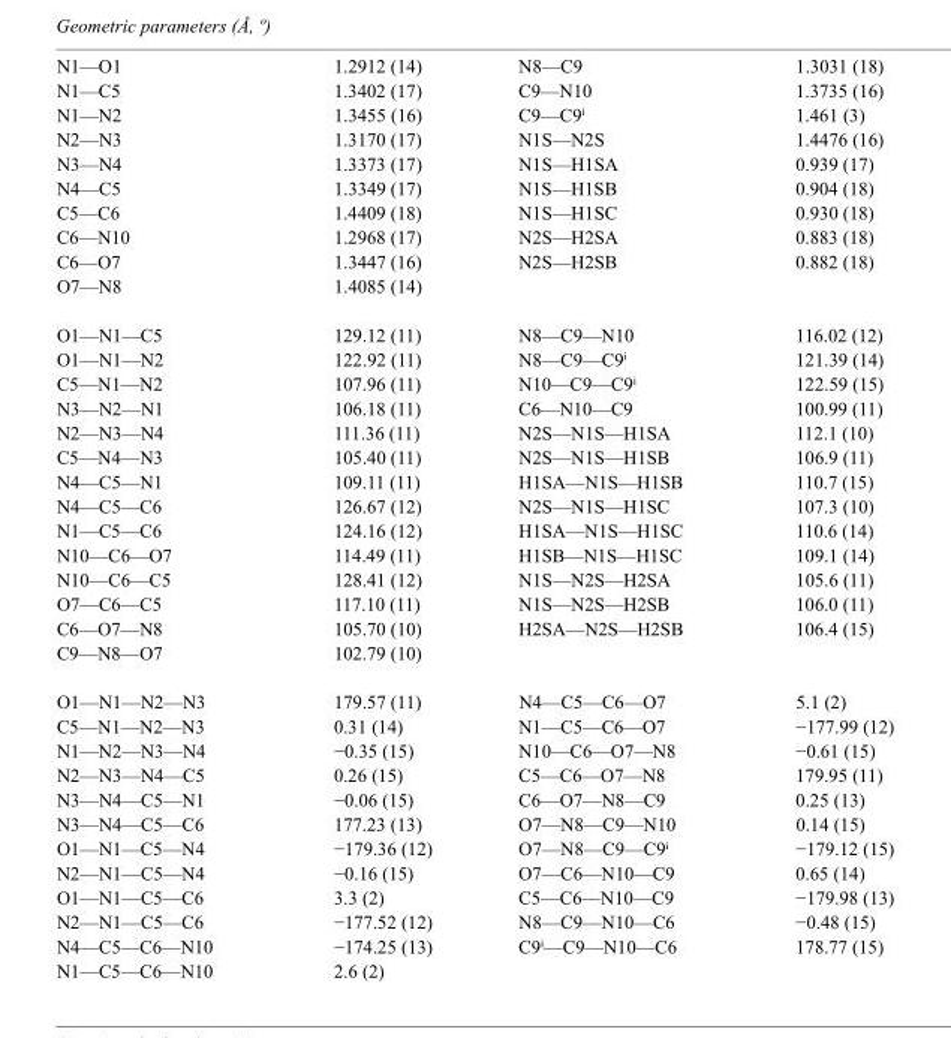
<table><tbody><tr><td>N1—O1</td><td>1.2912 (14)</td><td>N8—C9</td><td>1.3031 (18)</td></tr><tr><td>N1—C5</td><td>1.3402 (17)</td><td>C9—N10</td><td>1.3735 (16)</td></tr><tr><td>N1—N2</td><td>1.3455 (16)</td><td>C9—C9<sup>i</sup></td><td>1.461 (3)</td></tr><tr><td>N2—N3</td><td>1.3170 (17)</td><td>N1S—N2S</td><td>1.4476 (16)</td></tr><tr><td>N3—N4</td><td>1.3373 (17)</td><td>N1S—H1SA</td><td>0.939 (17)</td></tr><tr><td>N4—C5</td><td>1.3349 (17)</td><td>N1S—H1SB</td><td>0.904 (18)</td></tr><tr><td>C5—C6</td><td>1.4409 (18)</td><td>N1S—H1SC</td><td>0.930 (18)</td></tr><tr><td>C6—N10</td><td>1.2968 (17)</td><td>N2S—H2SA</td><td>0.883 (18)</td></tr><tr><td>C6—O7</td><td>1.3447 (16)</td><td>N2S—H2SB</td><td>0.882 (18)</td></tr><tr><td>O7—N8</td><td>1.4085 (14)</td><td></td><td></td></tr><tr><td>O1—N1—C5</td><td>129.12 (11)</td><td>N8—C9—N10</td><td>116.02 (12)</td></tr><tr><td>O1—N1—N2</td><td>122.92 (11)</td><td>N8—C9—C9<sup>i</sup></td><td>121.39 (14)</td></tr><tr><td>C5—N1—N2</td><td>107.96 (11)</td><td>N10—C9—C9<sup>i</sup></td><td>122.59 (15)</td></tr><tr><td>N3—N2—N1</td><td>106.18 (11)</td><td>C6—N10—C9</td><td>100.99 (11)</td></tr><tr><td>N2—N3—N4</td><td>111.36 (11)</td><td>N2S—N1S—H1SA</td><td>112.1 (10)</td></tr><tr><td>C5—N4—N3</td><td>105.40 (11)</td><td>N2S—N1S—H1SB</td><td>106.9 (11)</td></tr><tr><td>N4—C5—N1</td><td>109.11 (11)</td><td>H1SA—N1S—H1SB</td><td>110.7 (15)</td></tr><tr><td>N4—C5—C6</td><td>126.67 (12)</td><td>N2S—N1S—H1SC</td><td>107.3 (10)</td></tr><tr><td>N1—C5—C6</td><td>124.16 (12)</td><td>H1SA—N1S—H1SC</td><td>110.6 (14)</td></tr><tr><td>N10—C6—O7</td><td>114.49 (11)</td><td>H1SB—N1S—H1SC</td><td>109.1 (14)</td></tr><tr><td>N10—C6—C5</td><td>128.41 (12)</td><td>N1S—N2S—H2SA</td><td>105.6 (11)</td></tr><tr><td>O7—C6—C5</td><td>117.10 (11)</td><td>N1S—N2S—H2SB</td><td>106.0 (11)</td></tr><tr><td>C6—O7—N8</td><td>105.70 (10)</td><td>H2SA—N2S—H2SB</td><td>106.4 (15)</td></tr><tr><td>C9—N8—O7</td><td>102.79 (10)</td><td></td><td></td></tr><tr><td>O1—N1—N2—N3</td><td>179.57 (11)</td><td>N4—C5—C6—O7</td><td>5.1 (2)</td></tr><tr><td>C5—N1—N2—N3</td><td>0.31 (14)</td><td>N1—C5—C6—O7</td><td>−177.99 (12)</td></tr><tr><td>N1—N2—N3—N4</td><td>−0.35 (15)</td><td>N10—C6—O7—N8</td><td>−0.61 (15)</td></tr><tr><td>N2—N3—N4—C5</td><td>0.26 (15)</td><td>C5—C6—O7—N8</td><td>179.95 (11)</td></tr><tr><td>N3—N4—C5—N1</td><td>−0.06 (15)</td><td>C6—O7—N8—C9</td><td>0.25 (13)</td></tr><tr><td>N3—N4—C5—C6</td><td>177.23 (13)</td><td>O7—N8—C9—N10</td><td>0.14 (15)</td></tr><tr><td>O1—N1—C5—N4</td><td>−179.36 (12)</td><td>O7—N8—C9—C9<sup>i</sup></td><td>−179.12 (15)</td></tr><tr><td>N2—N1—C5—N4</td><td>−0.16 (15)</td><td>O7—C6—N10—C9</td><td>0.65 (14)</td></tr><tr><td>O1—N1—C5—C6</td><td>3.3 (2)</td><td>C5—C6—N10—C9</td><td>−179.98 (13)</td></tr><tr><td>N2—N1—C5—C6</td><td>−177.52 (12)</td><td>N8—C9—N10—C6</td><td>−0.48 (15)</td></tr><tr><td>N4—C5—C6—N10</td><td>−174.25 (13)</td><td>C9<sup>i</sup>—C9—N10—C6</td><td>178.77 (15)</td></tr><tr><td>N1—C5—C6—N10</td><td>2.6 (2)</td><td></td><td></td></tr></tbody></table>